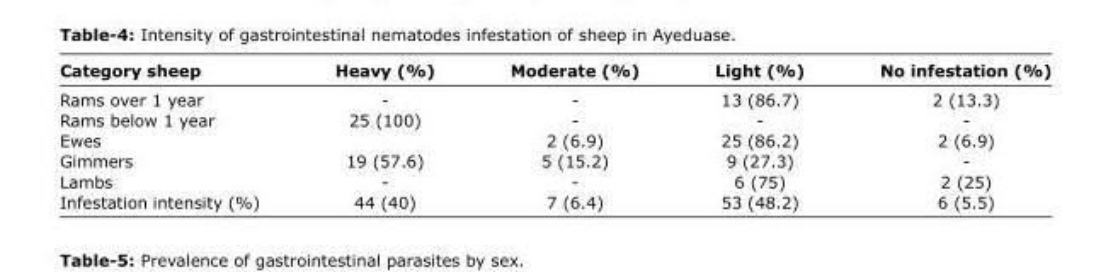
<table><thead><tr><td>Category sheep</td><td>Heavy (%)</td><td>Moderate (%)</td><td>Light (%)</td><td>No infestation (%)</td></tr></thead><tbody><tr><td>Rams over 1 year</td><td>-</td><td>-</td><td>13 (86.7)</td><td>2 (13.3)</td></tr><tr><td>Rams below 1 year</td><td>25 (100)</td><td>-</td><td>-</td><td>-</td></tr><tr><td>Ewes</td><td></td><td>2 (6.9)</td><td>25 (86.2)</td><td>2 (6.9)</td></tr><tr><td>Gimmers</td><td>19 (57.6)</td><td>5 (15.2)</td><td>9 (27.3)</td><td>-</td></tr><tr><td>Lambs</td><td>-</td><td>-</td><td>6 (75)</td><td>2 (25)</td></tr><tr><td>Infestation intensity (%)</td><td>44 (40)</td><td>7 (6.4)</td><td>53 (48.2)</td><td>6 (5.5)</td></tr></tbody></table>